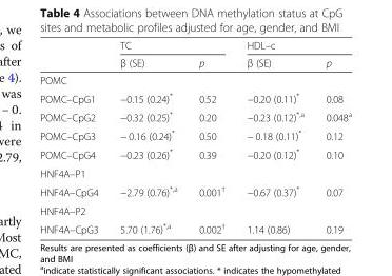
<table><thead><tr><td rowspan="2"></td><td colspan="2">TC</td><td colspan="2">HDL–c</td></tr><tr><td>β (SE)</td><td>p</td><td>β (SE)</td><td>p</td></tr></thead><tbody><tr><td colspan="5">POMC</td></tr><tr><td>POMC–CpG1</td><td>−0.15 (0.24)*</td><td>0.52</td><td>−0.20 (0.11)*</td><td>0.08</td></tr><tr><td>POMC–CpG2</td><td>−0.32 (0.25)*</td><td>0.20</td><td>−0.23 (0.12)<sup>*,a</sup></td><td>0.048<sup>a</sup></td></tr><tr><td>POMC–CpG3</td><td>− 0.16 (0.24)*</td><td>0.50</td><td>− 0.18 (0.11)*</td><td>0.12</td></tr><tr><td>POMC–CpG4</td><td>−0.23 (0.26)*</td><td>0.39</td><td>−0.20 (0.12)*</td><td>0.10</td></tr><tr><td colspan="5">HNF4A–P1</td></tr><tr><td>HNF4A–CpG4</td><td>−2.79 (0.76)<sup>*,a</sup></td><td>0.001<sup>†</sup></td><td>−0.67 (0.37)*</td><td>0.07</td></tr><tr><td colspan="5">HNF4A–P2</td></tr><tr><td>HNF4A–CpG3</td><td>5.70 (1.76)<sup>*,a</sup></td><td>0.002<sup>†</sup></td><td>1.14 (0.86)</td><td>0.19</td></tr></tbody></table>